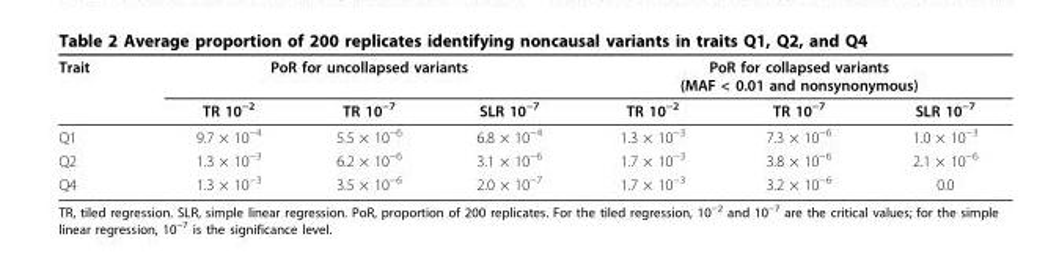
<table><thead><tr><td rowspan="2">Trait</td><td colspan="3">PoR for uncollapsed variants</td><td colspan="3">PoR for collapsed variants (MAF &lt; 0.01 and nonsynonymous)</td></tr><tr><td>TR 10<sup>−2</sup></td><td>TR 10<sup>−7</sup></td><td>SLR 10<sup>−7</sup></td><td>TR 10<sup>−2</sup></td><td>TR 10<sup>−7</sup></td><td>SLR 10<sup>−7</sup></td></tr></thead><tbody><tr><td>Q1</td><td>9.7 × 10<sup>−4</sup></td><td>5.5 × 10<sup>−6</sup></td><td>6.8 × 10<sup>−4</sup></td><td>1.3 × 10<sup>−3</sup></td><td>7.3 × 10<sup>−6</sup></td><td>1.0 × 10<sup>−3</sup></td></tr><tr><td>Q2</td><td>1.3 × 10<sup>−3</sup></td><td>6.2 × 10<sup>−6</sup></td><td>3.1 × 10<sup>−6</sup></td><td>1.7 × 10<sup>−3</sup></td><td>3.8 × 10<sup>−6</sup></td><td>2.1 × 10<sup>−6</sup></td></tr><tr><td>Q4</td><td>1.3 × 10<sup>−3</sup></td><td>3.5 × 10<sup>−6</sup></td><td>2.0 × 10<sup>−7</sup></td><td>1.7 × 10<sup>−3</sup></td><td>3.2 × 10<sup>−6</sup></td><td>0.0</td></tr></tbody></table>